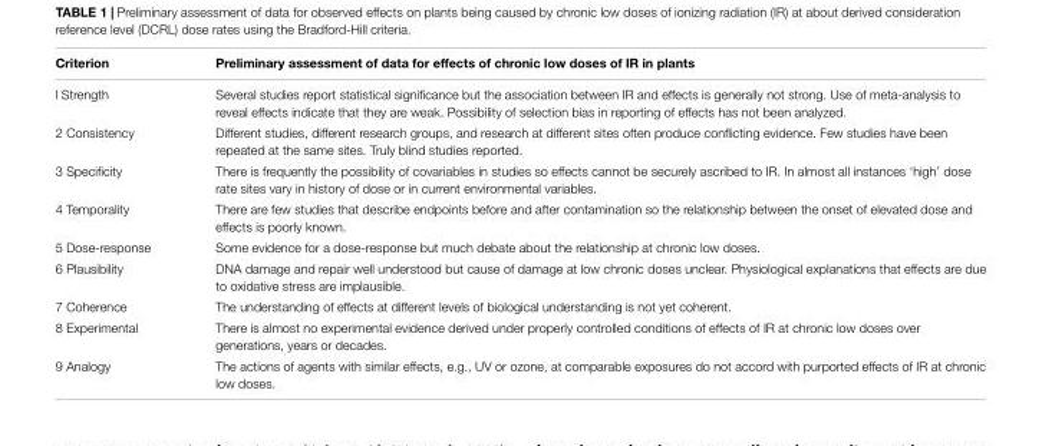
<table><thead><tr><td>Criterion</td><td>Preliminary assessment of data for effects of chronic low doses of IR in plants</td></tr></thead><tbody><tr><td>l Strength</td><td>Several studies report statistical significance but the association between IR and effects is generally not strong. Use of meta-analysis to reveal effects indicate that they are weak. Possibility of selection bias in reporting of effects has not been analyzed.</td></tr><tr><td>2 Consistency</td><td>Different studies, different research groups, and research at different sites often produce conflicting evidence. Few studies have been repeated at the same sites. Truly blind studies reported.</td></tr><tr><td>3 Specificity</td><td>There is frequently the possibility of covariables in studies so effects cannot be securely ascribed to IR. In almost all instances ‘high’ dose rate sites vary in history of dose or in current environmental variables.</td></tr><tr><td>4 Temporality</td><td>There are few studies that describe endpoints before and after contamination so the relationship between the onset of elevated dose and effects is poorly known.</td></tr><tr><td>5 Dose-response</td><td>Some evidence for a dose-response but much debate about the relationship at chronic low doses.</td></tr><tr><td>6 Plausibility</td><td>DNA damage and repair well understood but cause of damage at low chronic doses unclear. Physiological explanations that effects are due to oxidative stress are implausible.</td></tr><tr><td>7 Coherence</td><td>The understanding of effects at different levels of biological understanding is not yet coherent.</td></tr><tr><td>8 Experimental</td><td>There is almost no experimental evidence derived under properly controlled conditions of effects of IR at chronic low doses over generations, years or decades.</td></tr><tr><td>9 Analogy</td><td>The actions of agents with similar effects, e.g., UV or ozone, at comparable exposures do not accord with purported effects of IR at chronic low doses.</td></tr></tbody></table>